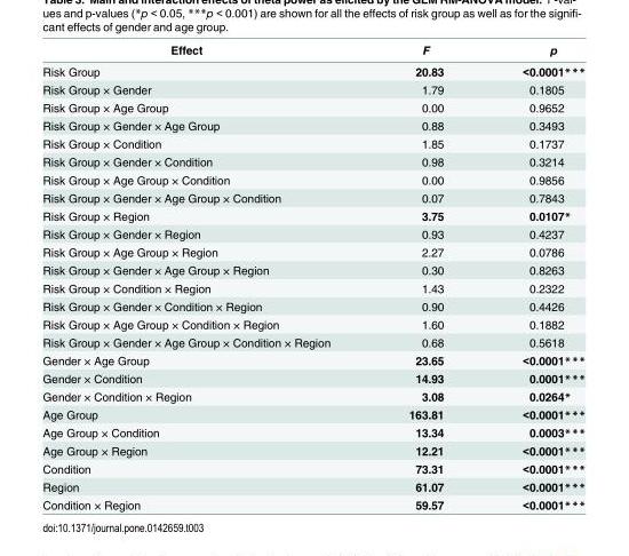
<table><thead><tr><td>Effect</td><td>F</td><td>p</td></tr></thead><tbody><tr><td>Risk Group</td><td>20.83</td><td>&lt;0.0001***</td></tr><tr><td>Risk Group × Gender</td><td>1.79</td><td>0.1805</td></tr><tr><td>Risk Group × Age Group</td><td>0.00</td><td>0.9652</td></tr><tr><td>Risk Group × Gender × Age Group</td><td>0.88</td><td>0.3493</td></tr><tr><td>Risk Group × Condition</td><td>1.85</td><td>0.1737</td></tr><tr><td>Risk Group × Gender × Condition</td><td>0.98</td><td>0.3214</td></tr><tr><td>Risk Group × Age Group × Condition</td><td>0.00</td><td>0.9856</td></tr><tr><td>Risk Group × Gender × Age Group × Condition</td><td>0.07</td><td>0.7843</td></tr><tr><td>Risk Group × Region</td><td>3.75</td><td>0.0107*</td></tr><tr><td>Risk Group × Gender × Region</td><td>0.93</td><td>0.4237</td></tr><tr><td>Risk Group × Age Group × Region</td><td>2.27</td><td>0.0786</td></tr><tr><td>Risk Group × Gender × Age Group × Region</td><td>0.30</td><td>0.8263</td></tr><tr><td>Risk Group × Condition × Region</td><td>1.43</td><td>0.2322</td></tr><tr><td>Risk Group × Gender × Condition × Region</td><td>0.90</td><td>0.4426</td></tr><tr><td>Risk Group × Age Group × Condition × Region</td><td>1.60</td><td>0.1882</td></tr><tr><td>Risk Group × Gender × Age Group × Condition × Region</td><td>0.68</td><td>0.5618</td></tr><tr><td>Gender × Age Group</td><td>23.65</td><td>&lt;0.0001***</td></tr><tr><td>Gender × Condition</td><td>14.93</td><td>0.0001***</td></tr><tr><td>Gender × Condition × Region</td><td>3.08</td><td>0.0264*</td></tr><tr><td>Age Group</td><td>163.81</td><td>&lt;0.0001***</td></tr><tr><td>Age Group × Condition</td><td>13.34</td><td>0.0003***</td></tr><tr><td>Age Group × Region</td><td>12.21</td><td>&lt;0.0001***</td></tr><tr><td>Condition</td><td>73.31</td><td>&lt;0.0001***</td></tr><tr><td>Region</td><td>61.07</td><td>&lt;0.0001***</td></tr><tr><td>Condition × Region</td><td>59.57</td><td>&lt;0.0001***</td></tr></tbody></table>